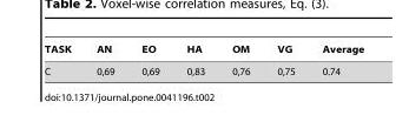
<table><thead><tr><td>TASK</td><td>AN</td><td>EO</td><td>HA</td><td>OM</td><td>VG</td><td>Average</td></tr></thead><tbody><tr><td>C</td><td>0,69</td><td>0,69</td><td>0,83</td><td>0,76</td><td>0,75</td><td>0.74</td></tr></tbody></table>